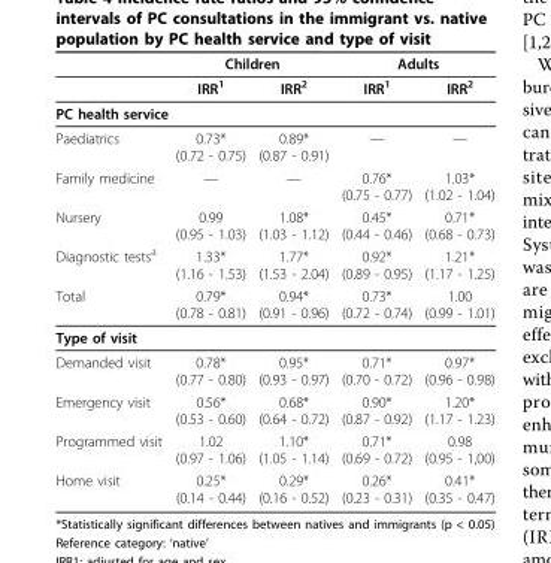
<table><thead><tr><td rowspan="2"></td><td colspan="2">Children</td><td colspan="2">Adults</td></tr><tr><td>IRR<sup>1</sup></td><td>IRR<sup>2</sup></td><td>IRR<sup>1</sup></td><td>IRR<sup>2</sup></td></tr></thead><tbody><tr><td colspan="5">PC health service</td></tr><tr><td>Paediatrics</td><td>0.73* (0.72 - 0.75)</td><td>0.89* (0.87 - 0.91)</td><td>—</td><td>—</td></tr><tr><td>Family medicine</td><td>—</td><td>—</td><td>0.76* (0.75 - 0.77)</td><td>1.03* (1.02 - 1.04)</td></tr><tr><td>Nursery</td><td>0.99 (0.95 - 1.03)</td><td>1.08* (1.03 - 1.12)</td><td>0.45* (0.44 - 0.46)</td><td>0.71* (0.68 - 0.73)</td></tr><tr><td>Diagnostic tests<sup>a</sup></td><td>1.33* (1.16 - 1.53)</td><td>1.77* (1.53 - 2.04)</td><td>0.92* (0.89 - 0.95)</td><td>1.21* (1.17 - 1.25)</td></tr><tr><td>Total</td><td>0.79* (0.78 - 0.81)</td><td>0.94* (0.91 - 0.96)</td><td>0.73* (0.72 - 0.74)</td><td>1.00 (0.99 - 1.01)</td></tr><tr><td colspan="5">Type of visit</td></tr><tr><td>Demanded visit</td><td>0.78* (0.77 - 0.80)</td><td>0.95* (0.93 - 0.97)</td><td>0.71* (0.70 - 0.72)</td><td>0.97* (0.96 - 0.98)</td></tr><tr><td>Emergency visit</td><td>0.56* (0.53 - 0.60)</td><td>0.68* (0.64 - 0.72)</td><td>0.90* (0.87 - 0.92)</td><td>1.20* (1.17 - 1.23)</td></tr><tr><td>Programmed visit</td><td>1.02 (0.97 - 1.06)</td><td>1.10* (1.05 - 1.14)</td><td>0.71* (0.69 - 0.72)</td><td>0.98 (0.95 - 1,00)</td></tr><tr><td>Home visit</td><td>0.25* (0.14 - 0.44)</td><td>0.29* (0.16 - 0.52)</td><td>0.26* (0.23 - 0.31)</td><td>0.41* (0.35 - 0.47)</td></tr></tbody></table>